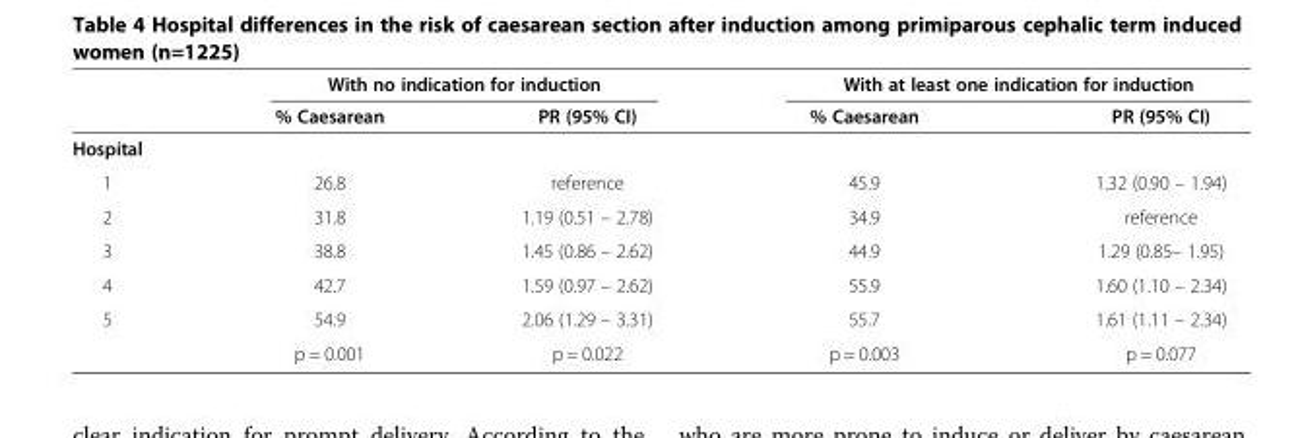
<table><thead><tr><td rowspan="2"></td><td colspan="2">With no indication for induction</td><td colspan="2">With at least one indication for induction</td></tr><tr><td>% Caesarean</td><td>PR (95% CI)</td><td>% Caesarean</td><td>PR (95% CI)</td></tr></thead><tbody><tr><td colspan="5">Hospital</td></tr><tr><td>1</td><td>26.8</td><td>reference</td><td>45.9</td><td>1.32 (0.90 – 1.94)</td></tr><tr><td>2</td><td>31.8</td><td>1.19 (0.51 – 2.78)</td><td>34.9</td><td>reference</td></tr><tr><td>3</td><td>38.8</td><td>1.45 (0.86 – 2.62)</td><td>44.9</td><td>1.29 (0.85– 1.95)</td></tr><tr><td>4</td><td>42.7</td><td>1.59 (0.97 – 2.62)</td><td>55.9</td><td>1.60 (1.10 – 2.34)</td></tr><tr><td rowspan="2">5</td><td>54.9</td><td>2.06 (1.29 – 3.31)</td><td>55.7</td><td>1.61 (1.11 – 2.34)</td></tr><tr><td>p = 0.001</td><td>p = 0.022</td><td>p = 0.003</td><td>p = 0.077</td></tr></tbody></table>